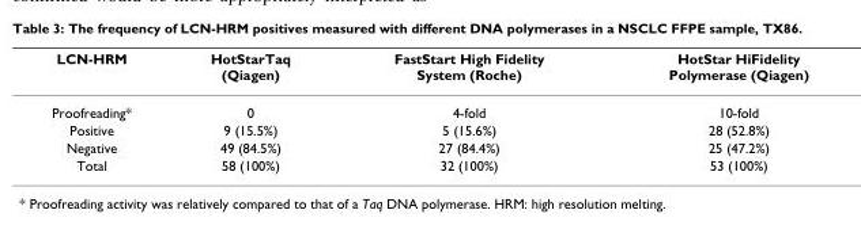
<table><thead><tr><td>LCN-HRM</td><td>HotStarTaq (Qiagen)</td><td>FastStart High Fidelity System (Roche)</td><td>HotStar HiFidelity Polymerase (Qiagen)</td></tr></thead><tbody><tr><td>Proofreading*</td><td>0</td><td>4-fold</td><td>10-fold</td></tr><tr><td>Positive</td><td>9 (15.5%)</td><td>5 (15.6%)</td><td>28 (52.8%)</td></tr><tr><td>Negative</td><td>49 (84.5%)</td><td>27 (84.4%)</td><td>25 (47.2%)</td></tr><tr><td>Total</td><td>58 (100%)</td><td>32 (100%)</td><td>53 (100%)</td></tr></tbody></table>